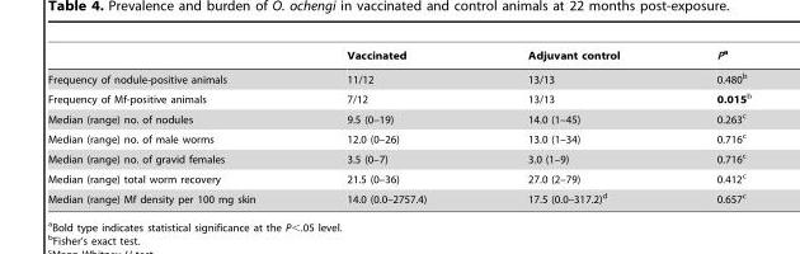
<table><thead><tr><td></td><td>Vaccinated</td><td>Adjuvant control</td><td>Pa</td></tr></thead><tbody><tr><td>Frequency of nodule-positive animals</td><td>11/12</td><td>13/13</td><td>0.480<sup>b</sup></td></tr><tr><td>Frequency of Mf-positive animals</td><td>7/12</td><td>13/13</td><td>0.015b</td></tr><tr><td>Median (range) no. of nodules</td><td>9.5 (0–19)</td><td>14.0 (1–45)</td><td>0.263<sup>c</sup></td></tr><tr><td>Median (range) no. of male worms</td><td>12.0 (0–26)</td><td>13.0 (1–34)</td><td>0.716<sup>c</sup></td></tr><tr><td>Median (range) no. of gravid females</td><td>3.5 (0–7)</td><td>3.0 (1–9)</td><td>0.716<sup>c</sup></td></tr><tr><td>Median (range) total worm recovery</td><td>21.5 (0–36)</td><td>27.0 (2–79)</td><td>0.412<sup>c</sup></td></tr><tr><td>Median (range) Mf density per 100 mg skin</td><td>14.0 (0.0–2757.4)</td><td>17.5 (0.0–317.2)<sup>d</sup></td><td>0.657<sup>c</sup></td></tr></tbody></table>